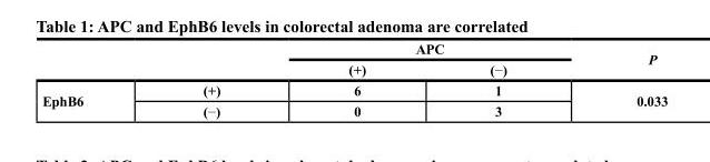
<table><thead><tr><td rowspan="2"></td><td rowspan="2"></td><td colspan="2">APC</td><td rowspan="2">P</td></tr><tr><td>(+)</td><td>(−)</td></tr></thead><tbody><tr><td rowspan="2">EphB6</td><td>(+)</td><td>6</td><td>1</td><td rowspan="2">0.033</td></tr><tr><td>(−)</td><td>0</td><td>3</td></tr></tbody></table>